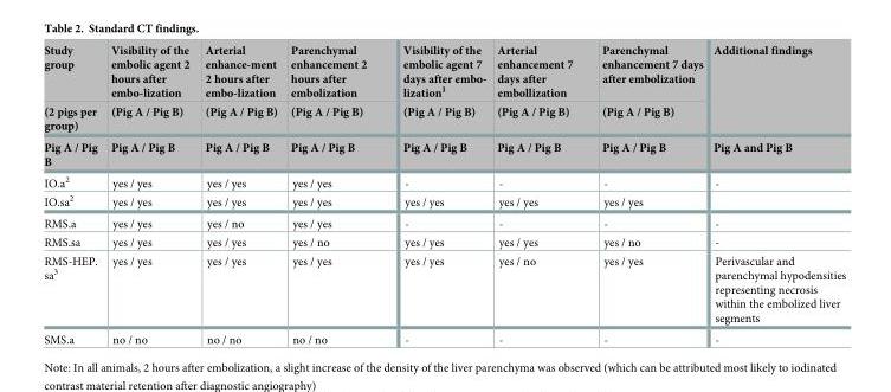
<table><thead><tr><td rowspan="3">Study group (2 pigs per group) Pig A / Pig B</td><td rowspan="3">Visibility of the embolic agent 2 hours after embo-lization (Pig A / Pig B) Pig A / Pig B</td><td rowspan="3">Arterial enhance-ment 2 hours after embo-lization (Pig A / Pig B) Pig A / Pig B</td><td rowspan="3">Parenchymal enhancement 2 hours after embolization (Pig A / Pig B) Pig A / Pig B</td><td rowspan="3">Visibility of the embolic agent 7 days after embo- lization<sup>1</sup> (Pig A / Pig B) Pig A / Pig B</td><td rowspan="3">Arterial enhancement 7 days after embollization (Pig A / Pig B) Pig A / Pig B</td><td rowspan="3">Parenchymal enhancement 7 days after embolization (Pig A / Pig B) Pig A / Pig B</td><td rowspan="3">Additional findings Pig A and Pig B</td></tr><tr></tr><tr></tr></thead><tbody><tr><td>IO.a<sup>2</sup></td><td>yes / yes</td><td>yes / yes</td><td>yes / yes</td><td>-</td><td>-</td><td>-</td><td>-</td></tr><tr><td>IO.sa<sup>2</sup></td><td>yes / yes</td><td>yes / yes</td><td>yes / yes</td><td>yes / yes</td><td>yes / yes</td><td>yes / yes</td><td></td></tr><tr><td>RMS.a</td><td>yes / yes</td><td>yes / no</td><td>yes / yes</td><td>-</td><td>-</td><td>-</td><td>-</td></tr><tr><td>RMS.sa</td><td>yes / yes</td><td>yes / yes</td><td>yes / no</td><td>yes / yes</td><td>yes / yes</td><td>yes / no</td><td>-</td></tr><tr><td>RMS-HEP. sa<sup>3</sup></td><td>yes / yes</td><td>yes / yes</td><td>yes / yes</td><td>yes / yes</td><td>yes / no</td><td>yes / yes</td><td>Perivascular and parenchymal hypodensities representing necrosis within the embolized liver segments</td></tr><tr><td>SMS.a</td><td>no / no</td><td>no / no</td><td>no / no</td><td>-</td><td>-</td><td>-</td><td>-</td></tr></tbody></table>